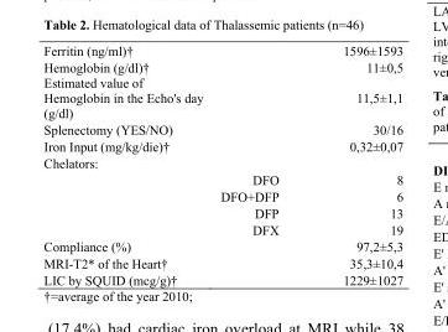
<table><tbody><tr><td>Ferritin (ng/ml)†</td><td>1596±1593</td></tr><tr><td>Hemoglobin (g/dl)†</td><td>11±0,5</td></tr><tr><td>Estimated value of Hemoglobin in the Echo&#x27;s day (g/dl)</td><td>11,5±1,1</td></tr><tr><td>Splenectomy (YES/NO)</td><td>30/16</td></tr><tr><td>Iron Input (mg/kg/die)†</td><td>0,32±0,07</td></tr><tr><td colspan="2">Chelators:</td></tr><tr><td>DFO</td><td>8</td></tr><tr><td>DFO+DFP</td><td>6</td></tr><tr><td>DFP</td><td>13</td></tr><tr><td>DFX</td><td>19</td></tr><tr><td>Compliance (%)</td><td>97,2±5,3</td></tr><tr><td>MRI-T2* of the Heart†</td><td>35,3±10,4</td></tr><tr><td>LIC by SQUID (mcg/g)†</td><td>1229±1027</td></tr></tbody></table>